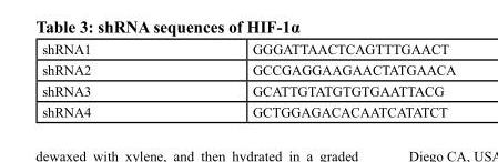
<table><tbody><tr><td>shRNA1</td><td>GGGATTAACTCAGTTTGAACT</td></tr><tr><td>shRNA2</td><td>GCCGAGGAAGAACTATGAACA</td></tr><tr><td>shRNA3</td><td>GCATTGTATGTGTGAATTACG</td></tr><tr><td>shRNA4</td><td>GCTGGAGACACAATCATATCT</td></tr></tbody></table>